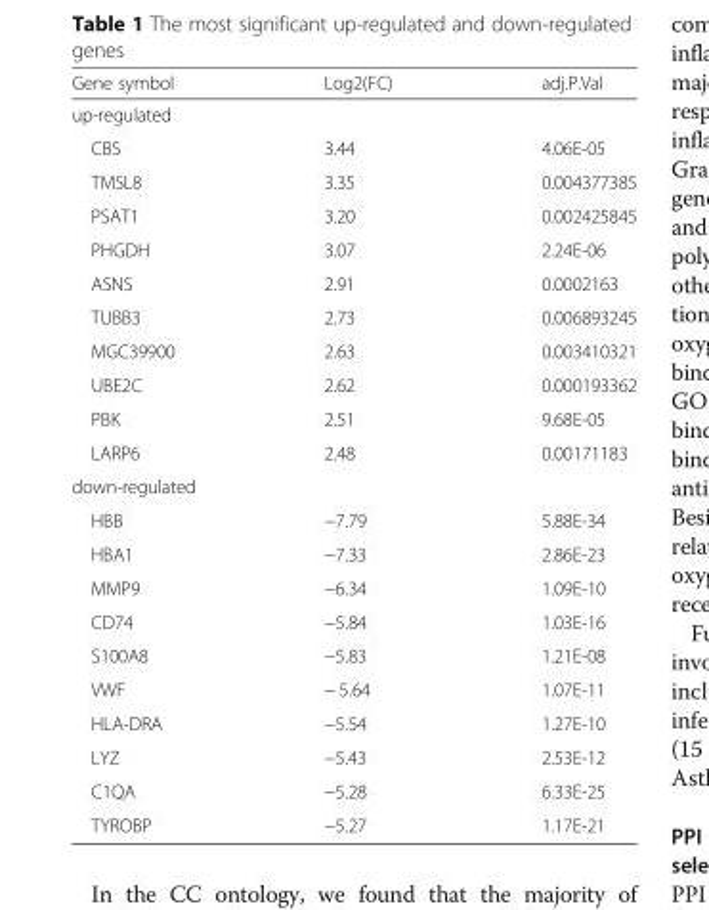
<table><thead><tr><td>Gene symbol</td><td>Log2(FC)</td><td>adj.P.Val</td></tr></thead><tbody><tr><td colspan="3">up-regulated</td></tr><tr><td>CBS</td><td>3.44</td><td>4.06E-05</td></tr><tr><td>TMSL8</td><td>3.35</td><td>0.004377385</td></tr><tr><td>PSAT1</td><td>3.20</td><td>0.002425845</td></tr><tr><td>PHGDH</td><td>3.07</td><td>2.24E-06</td></tr><tr><td>ASNS</td><td>2.91</td><td>0.0002163</td></tr><tr><td>TUBB3</td><td>2.73</td><td>0.006893245</td></tr><tr><td>MGC39900</td><td>2.63</td><td>0.003410321</td></tr><tr><td>UBE2C</td><td>2.62</td><td>0.000193362</td></tr><tr><td>PBK</td><td>2.51</td><td>9.68E-05</td></tr><tr><td>LARP6</td><td>2.48</td><td>0.00171183</td></tr><tr><td colspan="3">down-regulated</td></tr><tr><td>HBB</td><td>−7.79</td><td>5.88E-34</td></tr><tr><td>HBA1</td><td>−7.33</td><td>2.86E-23</td></tr><tr><td>MMP9</td><td>−6.34</td><td>1.09E-10</td></tr><tr><td>CD74</td><td>−5.84</td><td>1.03E-16</td></tr><tr><td>S100A8</td><td>−5.83</td><td>1.21E-08</td></tr><tr><td>VWF</td><td>− 5.64</td><td>1.07E-11</td></tr><tr><td>HLA-DRA</td><td>−5.54</td><td>1.27E-10</td></tr><tr><td>LYZ</td><td>−5.43</td><td>2.53E-12</td></tr><tr><td>C1QA</td><td>−5.28</td><td>6.33E-25</td></tr><tr><td>TYROBP</td><td>−5.27</td><td>1.17E-21</td></tr></tbody></table>